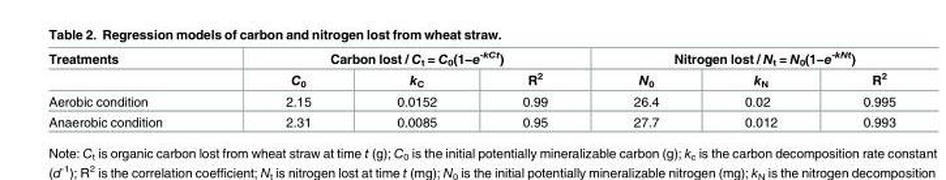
<table><thead><tr><td rowspan="2">Treatments</td><td colspan="3">Carbon lost / C<sub>t</sub> = C<sub>0</sub>(1−e<sup>-kCt</sup>)</td><td colspan="3">Nitrogen lost / N<sub>t</sub> = N<sub>0</sub>(1−e<sup>-kNt</sup>)</td></tr><tr><td>C<sub>0</sub></td><td>k<sub>C</sub></td><td>R<sup>2</sup></td><td>N<sub>0</sub></td><td>k<sub>N</sub></td><td>R<sup>2</sup></td></tr></thead><tbody><tr><td>Aerobic condition</td><td>2.15</td><td>0.0152</td><td>0.99</td><td>26.4</td><td>0.02</td><td>0.995</td></tr><tr><td>Anaerobic condition</td><td>2.31</td><td>0.0085</td><td>0.95</td><td>27.7</td><td>0.012</td><td>0.993</td></tr></tbody></table>